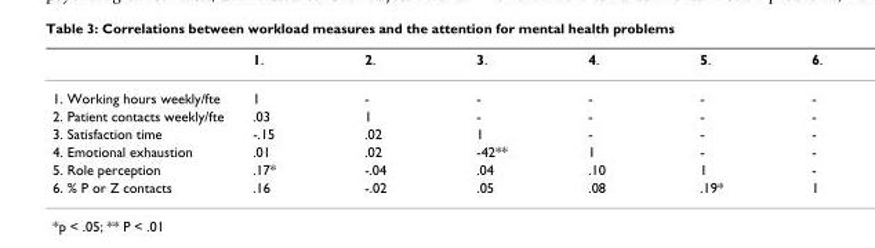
<table><thead><tr><td></td><td>1.</td><td>2.</td><td>3.</td><td>4.</td><td>5.</td><td>6.</td></tr></thead><tbody><tr><td>1. Working hours weekly/fte</td><td>1</td><td>-</td><td>-</td><td>-</td><td>-</td><td>-</td></tr><tr><td>2. Patient contacts weekly/fte</td><td>.03</td><td>1</td><td>-</td><td>-</td><td>-</td><td>-</td></tr><tr><td>3. Satisfaction time</td><td>-.15</td><td>.02</td><td>1</td><td>-</td><td>-</td><td>-</td></tr><tr><td>4. Emotional exhaustion</td><td>.01</td><td>.02</td><td>-42**</td><td>1</td><td>-</td><td>-</td></tr><tr><td>5. Role perception</td><td>.17*</td><td>-.04</td><td>.04</td><td>.10</td><td>1</td><td>-</td></tr><tr><td>6. % P or Z contacts</td><td>.16</td><td>-.02</td><td>.05</td><td>.08</td><td>.19*</td><td>1</td></tr></tbody></table>